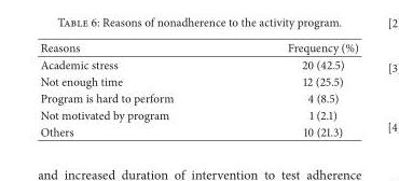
<table><thead><tr><td>Reasons</td><td>Frequency (%)</td></tr></thead><tbody><tr><td>Academic stress</td><td>20 (42.5)</td></tr><tr><td>Not enough time</td><td>12 (25.5)</td></tr><tr><td>Program is hard to perform</td><td>4 (8.5)</td></tr><tr><td>Not motivated by program</td><td>1 (2.1)</td></tr><tr><td>Others</td><td>10 (21.3)</td></tr></tbody></table>